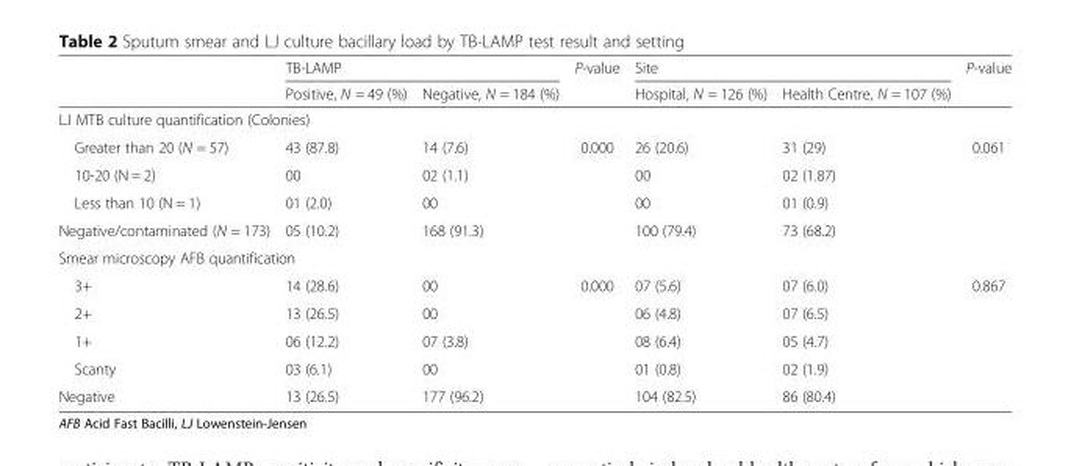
<table><thead><tr><td rowspan="2"></td><td colspan="2">TB-LAMP</td><td rowspan="2">P-value</td><td colspan="2">Site</td><td rowspan="2">P-value</td></tr><tr><td>Positive, N = 49 (%)</td><td>Negative, N = 184 (%)</td><td>Hospital, N = 126 (%)</td><td>Health Centre, N = 107 (%)</td></tr></thead><tbody><tr><td colspan="7">LJ MTB culture quantification (Colonies)</td></tr><tr><td>Greater than 20 (N = 57)</td><td>43 (87.8)</td><td>14 (7.6)</td><td>0.000</td><td>26 (20.6)</td><td>31 (29)</td><td>0.061</td></tr><tr><td>10-20 (N = 2)</td><td>00</td><td>02 (1.1)</td><td></td><td>00</td><td>02 (1.87)</td><td></td></tr><tr><td>Less than 10 (N = 1)</td><td>01 (2.0)</td><td>00</td><td></td><td>00</td><td>01 (0.9)</td><td></td></tr><tr><td>Negative/contaminated (N = 173)</td><td>05 (10.2)</td><td>168 (91.3)</td><td></td><td>100 (79.4)</td><td>73 (68.2)</td><td></td></tr><tr><td colspan="7">Smear microscopy AFB quantification</td></tr><tr><td>3+</td><td>14 (28.6)</td><td>00</td><td>0.000</td><td>07 (5.6)</td><td>07 (6.0)</td><td>0.867</td></tr><tr><td>2+</td><td>13 (26.5)</td><td>00</td><td></td><td>06 (4.8)</td><td>07 (6.5)</td><td></td></tr><tr><td>1+</td><td>06 (12.2)</td><td>07 (3.8)</td><td></td><td>08 (6.4)</td><td>05 (4.7)</td><td></td></tr><tr><td>Scanty</td><td>03 (6.1)</td><td>00</td><td></td><td>01 (0.8)</td><td>02 (1.9)</td><td></td></tr><tr><td>Negative</td><td>13 (26.5)</td><td>177 (96.2)</td><td></td><td>104 (82.5)</td><td>86 (80.4)</td><td></td></tr></tbody></table>